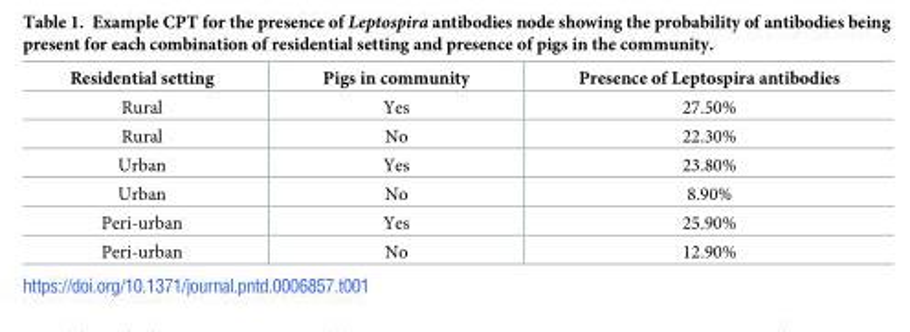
<table><thead><tr><td>Residential setting</td><td>Pigs in community</td><td>Presence of Leptospira antibodies</td></tr></thead><tbody><tr><td>Rural</td><td>Yes</td><td>27.50%</td></tr><tr><td>Rural</td><td>No</td><td>22.30%</td></tr><tr><td>Urban</td><td>Yes</td><td>23.80%</td></tr><tr><td>Urban</td><td>No</td><td>8.90%</td></tr><tr><td>Peri-urban</td><td>Yes</td><td>25.90%</td></tr><tr><td>Peri-urban</td><td>No</td><td>12.90%</td></tr></tbody></table>